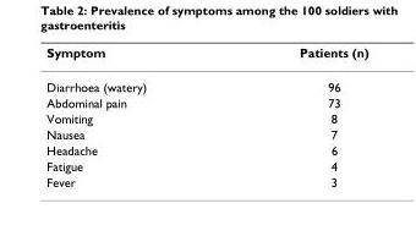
<table><thead><tr><td>Symptom</td><td>Patients (n)</td></tr></thead><tbody><tr><td>Diarrhoea (watery)</td><td>96</td></tr><tr><td>Abdominal pain</td><td>73</td></tr><tr><td>Vomiting</td><td>8</td></tr><tr><td>Nausea</td><td>7</td></tr><tr><td>Headache</td><td>6</td></tr><tr><td>Fatigue</td><td>4</td></tr><tr><td>Fever</td><td>3</td></tr></tbody></table>